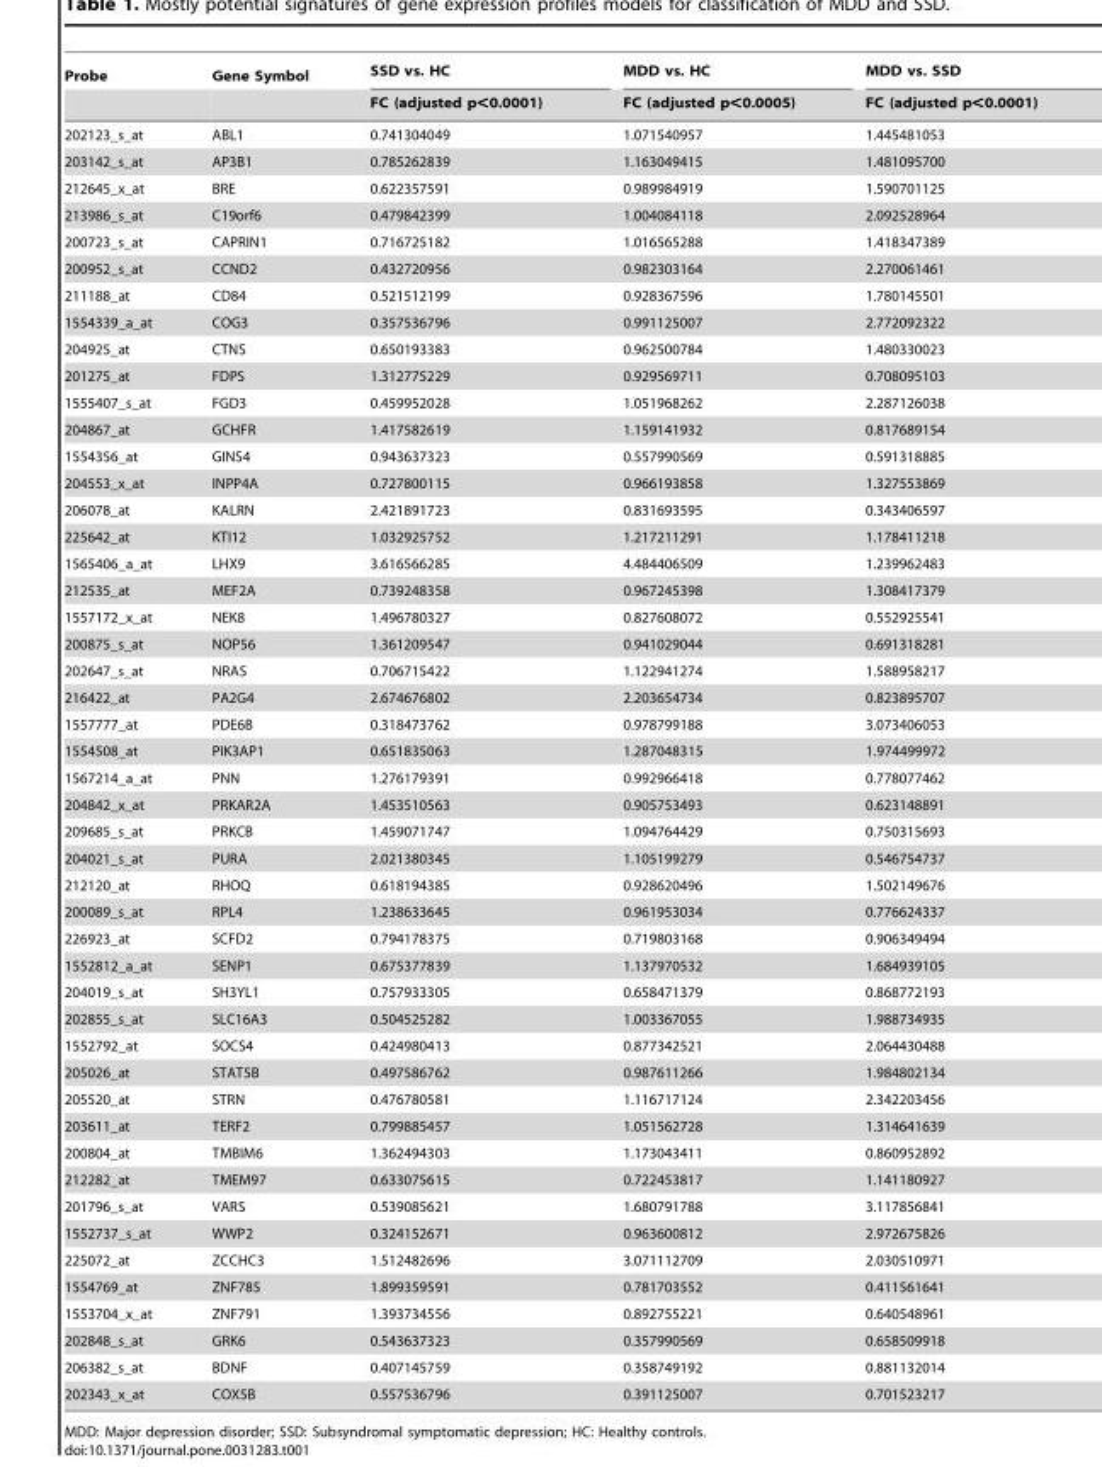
<table><thead><tr><td rowspan="2">Probe</td><td rowspan="2">Gene Symbol</td><td rowspan="2">SSD vs. HC FC (adjusted p&lt;0.0001)</td><td rowspan="2">MDD vs. HC FC (adjusted p&lt;0.0005)</td><td rowspan="2">MDD vs. SSD FC (adjusted p&lt;0.0001)</td></tr><tr></tr></thead><tbody><tr><td>202123_s_at</td><td>ABL1</td><td>0.741304049</td><td>1.071540957</td><td>1.445481053</td></tr><tr><td>203142_s_at</td><td>AP3B1</td><td>0.785262839</td><td>1.163049415</td><td>1.481095700</td></tr><tr><td>212645_x_at</td><td>BRE</td><td>0.622357591</td><td>0.989984919</td><td>1.590701125</td></tr><tr><td>213986_s_at</td><td>C19orf6</td><td>0.479842399</td><td>1.004084118</td><td>2.092528964</td></tr><tr><td>200723_s_at</td><td>CAPRIN1</td><td>0.716725182</td><td>1.016565288</td><td>1.418347389</td></tr><tr><td>200952_s_at</td><td>CCND2</td><td>0.432720956</td><td>0.982303164</td><td>2.270061461</td></tr><tr><td>211188_at</td><td>CD84</td><td>0.521512199</td><td>0.928367596</td><td>1.780145501</td></tr><tr><td>1554339_a_at</td><td>COG3</td><td>0.357536796</td><td>0.991125007</td><td>2.772092322</td></tr><tr><td>204925_at</td><td>CTNS</td><td>0.650193383</td><td>0.962500784</td><td>1.480330023</td></tr><tr><td>201275_at</td><td>FDPS</td><td>1.312775229</td><td>0.929569711</td><td>0.708095103</td></tr><tr><td>1555407_s_at</td><td>FGD3</td><td>0.459952028</td><td>1.051968262</td><td>2.287126038</td></tr><tr><td>204867_at</td><td>GCHFR</td><td>1.417582619</td><td>1.159141932</td><td>0.817689154</td></tr><tr><td>1554356_at</td><td>GINS4</td><td>0.943637323</td><td>0.557990569</td><td>0.591318885</td></tr><tr><td>204553_x_at</td><td>INPP4A</td><td>0.727800115</td><td>0.966193858</td><td>1.327553869</td></tr><tr><td>206078_at</td><td>KALRN</td><td>2.421891723</td><td>0.831693595</td><td>0.343406597</td></tr><tr><td>225642_at</td><td>KTI12</td><td>1.032925752</td><td>1.217211291</td><td>1.178411218</td></tr><tr><td>1565406_a_at</td><td>LHX9</td><td>3.616566285</td><td>4.484406509</td><td>1.239962483</td></tr><tr><td>212535_at</td><td>MEF2A</td><td>0.739248358</td><td>0.967245398</td><td>1.308417379</td></tr><tr><td>1557172_x_at</td><td>NEK8</td><td>1.496780327</td><td>0.827608072</td><td>0.552925541</td></tr><tr><td>200875_s_at</td><td>NOP56</td><td>1.361209547</td><td>0.941029044</td><td>0.691318281</td></tr><tr><td>202647_s_at</td><td>NRAS</td><td>0.706715422</td><td>1.122941274</td><td>1.588958217</td></tr><tr><td>216422_at</td><td>PA2G4</td><td>2.674676802</td><td>2.203654734</td><td>0.823895707</td></tr><tr><td>1557777_at</td><td>PDE6B</td><td>0.318473762</td><td>0.978799188</td><td>3.073406053</td></tr><tr><td>1554508_at</td><td>PIK3AP1</td><td>0.651835063</td><td>1.287048315</td><td>1.974499972</td></tr><tr><td>1567214_a_at</td><td>PNN</td><td>1.276179391</td><td>0.992966418</td><td>0.778077462</td></tr><tr><td>204842_x_at</td><td>PRKAR2A</td><td>1.453510563</td><td>0.905753493</td><td>0.623148891</td></tr><tr><td>209685_s_at</td><td>PRKCB</td><td>1.459071747</td><td>1.094764429</td><td>0.750315693</td></tr><tr><td>204021_s_at</td><td>PURA</td><td>2.021380345</td><td>1.105199279</td><td>0.546754737</td></tr><tr><td>212120_at</td><td>RHOQ</td><td>0.618194385</td><td>0.928620496</td><td>1.502149676</td></tr><tr><td>200089_s_at</td><td>RPL4</td><td>1.238633645</td><td>0.961953034</td><td>0.776624337</td></tr><tr><td>226923_at</td><td>SCFD2</td><td>0.794178375</td><td>0.719803168</td><td>0.906349494</td></tr><tr><td>1552812_a_at</td><td>SENP1</td><td>0.675377839</td><td>1.137970532</td><td>1.684939105</td></tr><tr><td>204019_s_at</td><td>SH3YL1</td><td>0.757933305</td><td>0.658471379</td><td>0.868772193</td></tr><tr><td>202855_s_at</td><td>SLC16A3</td><td>0.504525282</td><td>1.003367055</td><td>1.988734935</td></tr><tr><td>1552792_at</td><td>SOCS4</td><td>0.424980413</td><td>0.877342521</td><td>2.064430488</td></tr><tr><td>205026_at</td><td>STAT5B</td><td>0.497586762</td><td>0.987611266</td><td>1.984802134</td></tr><tr><td>205520_at</td><td>STRN</td><td>0.476780581</td><td>1.116717124</td><td>2.342203456</td></tr><tr><td>203611_at</td><td>TERF2</td><td>0.799885457</td><td>1.051562728</td><td>1.314641639</td></tr><tr><td>200804_at</td><td>TMBIM6</td><td>1.362494303</td><td>1.173043411</td><td>0.860952892</td></tr><tr><td>212282_at</td><td>TMEM97</td><td>0.633075615</td><td>0.722453817</td><td>1.141180927</td></tr><tr><td>201796_s_at</td><td>VARS</td><td>0.539085621</td><td>1.680791788</td><td>3.117856841</td></tr><tr><td>1552737_s_at</td><td>WWP2</td><td>0.324152671</td><td>0.963600812</td><td>2.972675826</td></tr><tr><td>225072_at</td><td>ZCCHC3</td><td>1.512482696</td><td>3.071112709</td><td>2.030510971</td></tr><tr><td>1554769_at</td><td>ZNF785</td><td>1.899359591</td><td>0.781703552</td><td>0.411561641</td></tr><tr><td>1553704_x_at</td><td>ZNF791</td><td>1.393734556</td><td>0.892755221</td><td>0.640548961</td></tr><tr><td>202848_s_at</td><td>GRK6</td><td>0.543637323</td><td>0.357990569</td><td>0.658509918</td></tr><tr><td>206382_s_at</td><td>BDNF</td><td>0.407145759</td><td>0.358749192</td><td>0.881132014</td></tr><tr><td>202343_x_at</td><td>COX5B</td><td>0.557536796</td><td>0.391125007</td><td>0.701523217</td></tr></tbody></table>